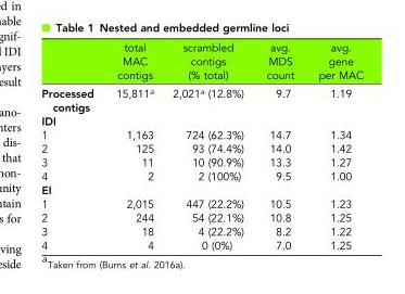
<table><thead><tr><td></td><td>total MAC contigs</td><td>scrambled contigs (% total)</td><td>avg. MDS count</td><td>avg. gene per MAC</td></tr></thead><tbody><tr><td>Processed contigs</td><td>15,811<sup>a</sup></td><td>2,021<sup>a</sup> (12.8%)</td><td>9.7</td><td>1.19</td></tr><tr><td colspan="5">IDI</td></tr><tr><td>1</td><td>1,163</td><td>724 (62.3%)</td><td>14.7</td><td>1.34</td></tr><tr><td>2</td><td>125</td><td>93 (74.4%)</td><td>14.0</td><td>1.42</td></tr><tr><td>3</td><td>11</td><td>10 (90.9%)</td><td>13.3</td><td>1.27</td></tr><tr><td>4</td><td>2</td><td>2 (100%)</td><td>9.5</td><td>1.00</td></tr><tr><td colspan="5">EI</td></tr><tr><td>1</td><td>2,015</td><td>447 (22.2%)</td><td>10.5</td><td>1.23</td></tr><tr><td>2</td><td>244</td><td>54 (22.1%)</td><td>10.8</td><td>1.25</td></tr><tr><td>3</td><td>18</td><td>4 (22.2%)</td><td>8.2</td><td>1.22</td></tr><tr><td>4</td><td>4</td><td>0 (0%)</td><td>7.0</td><td>1.25</td></tr></tbody></table>